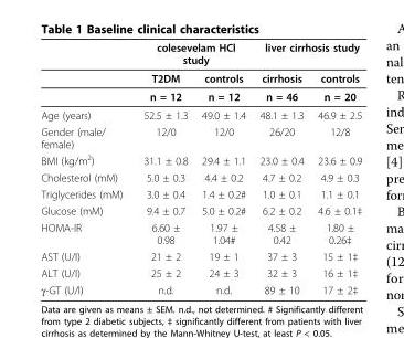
<table><thead><tr><td rowspan="2"></td><td colspan="2">colesevelam HCl study</td><td colspan="2">liver cirrhosis study</td></tr><tr><td>T2DM</td><td>controls</td><td>cirrhosis</td><td>controls</td></tr></thead><tbody><tr><td></td><td>n = 12</td><td>n = 12</td><td>n = 46</td><td>n = 20</td></tr><tr><td>Age (years)</td><td>52.5 ± 1.3</td><td>49.0 ± 1.4</td><td>48.1 ± 1.3</td><td>46.9 ± 2.5</td></tr><tr><td>Gender (male/ female)</td><td>12/0</td><td>12/0</td><td>26/20</td><td>12/8</td></tr><tr><td>BMI (kg/m<sup>2</sup>)</td><td>31.1 ± 0.8</td><td>29.4 ± 1.1</td><td>23.0 ± 0.4</td><td>23.6 ± 0.9</td></tr><tr><td>Cholesterol (mM)</td><td>5.0 ± 0.3</td><td>4.4 ± 0.2</td><td>4.7 ± 0.2</td><td>4.9 ± 0.3</td></tr><tr><td>Triglycerides (mM)</td><td>3.0 ± 0.4</td><td>1.4 ± 0.2#</td><td>1.0 ± 0.1</td><td>1.1 ± 0.1</td></tr><tr><td>Glucose (mM)</td><td>9.4 ± 0.7</td><td>5.0 ± 0.2#</td><td>6.2 ± 0.2</td><td>4.6 ± 0.1‡</td></tr><tr><td>HOMA-IR</td><td>6.60 ± 0.98</td><td>1.97 ± 1.04#</td><td>4.58 ± 0.42</td><td>1.80 ± 0.26‡</td></tr><tr><td>AST (U/l)</td><td>21 ± 2</td><td>19 ± 1</td><td>37 ± 3</td><td>15 ± 1‡</td></tr><tr><td>ALT (U/l)</td><td>25 ± 2</td><td>24 ± 3</td><td>32 ± 3</td><td>16 ± 1‡</td></tr><tr><td>γ-GT (U/l)</td><td>n.d.</td><td>n.d.</td><td>89 ± 10</td><td>17 ± 2‡</td></tr></tbody></table>